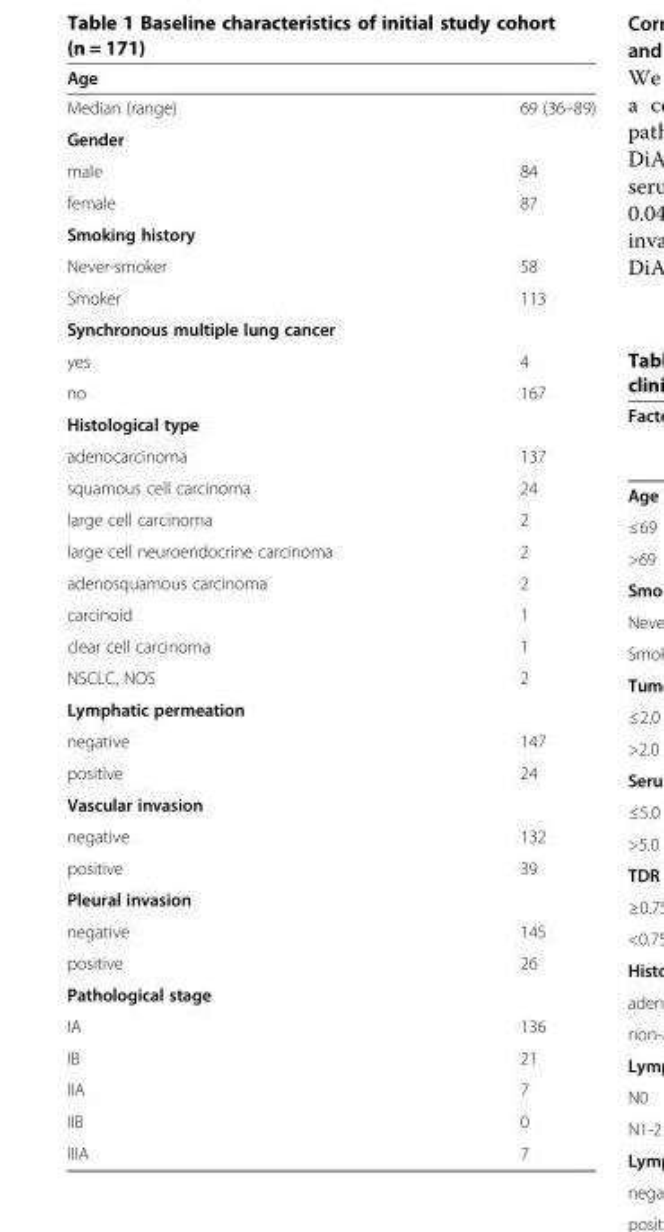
<table><thead><tr><td>Age</td><td></td></tr></thead><tbody><tr><td>Median (range)</td><td>69 (36–89)</td></tr><tr><td colspan="2">Gender</td></tr><tr><td>male</td><td>84</td></tr><tr><td>female</td><td>87</td></tr><tr><td colspan="2">Smoking history</td></tr><tr><td>Never-smoker</td><td>58</td></tr><tr><td>Smoker</td><td>113</td></tr><tr><td colspan="2">Synchronous multiple lung cancer</td></tr><tr><td>yes</td><td>4</td></tr><tr><td>no</td><td>167</td></tr><tr><td colspan="2">Histological type</td></tr><tr><td>adenocarcinoma</td><td>137</td></tr><tr><td>squamous cell carcinoma</td><td>24</td></tr><tr><td>large cell carcinoma</td><td>2</td></tr><tr><td>large cell neuroendocrine carcinoma</td><td>2</td></tr><tr><td>adenosquamous carcinoma</td><td>2</td></tr><tr><td>carcinoid</td><td>1</td></tr><tr><td>clear cell carcinoma</td><td>1</td></tr><tr><td>NSCLC, NOS</td><td>2</td></tr><tr><td colspan="2">Lymphatic permeation</td></tr><tr><td>negative</td><td>147</td></tr><tr><td>positive</td><td>24</td></tr><tr><td colspan="2">Vascular invasion</td></tr><tr><td>negative</td><td>132</td></tr><tr><td>positive</td><td>39</td></tr><tr><td colspan="2">Pleural invasion</td></tr><tr><td>negative</td><td>145</td></tr><tr><td>positive</td><td>26</td></tr><tr><td colspan="2">Pathological stage</td></tr><tr><td>IA</td><td>136</td></tr><tr><td>IB</td><td>21</td></tr><tr><td>IIA</td><td>7</td></tr><tr><td>IIB</td><td>0</td></tr><tr><td>IIIA</td><td>7</td></tr></tbody></table>